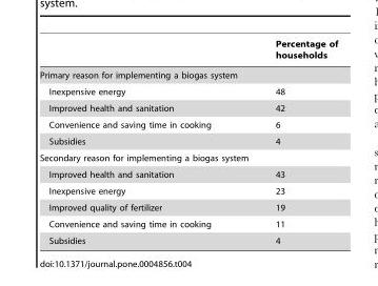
<table><thead><tr><td></td><td>Percentage of households</td></tr></thead><tbody><tr><td colspan="2">Primary reason for implementing a biogas system</td></tr><tr><td>Inexpensive energy</td><td>48</td></tr><tr><td>Improved health and sanitation</td><td>42</td></tr><tr><td>Convenience and saving time in cooking</td><td>6</td></tr><tr><td>Subsidies</td><td>4</td></tr><tr><td colspan="2">Secondary reason for implementing a biogas system</td></tr><tr><td>Improved health and sanitation</td><td>43</td></tr><tr><td>Inexpensive energy</td><td>23</td></tr><tr><td>Improved quality of fertilizer</td><td>19</td></tr><tr><td>Convenience and saving time in cooking</td><td>11</td></tr><tr><td>Subsidies</td><td>4</td></tr></tbody></table>